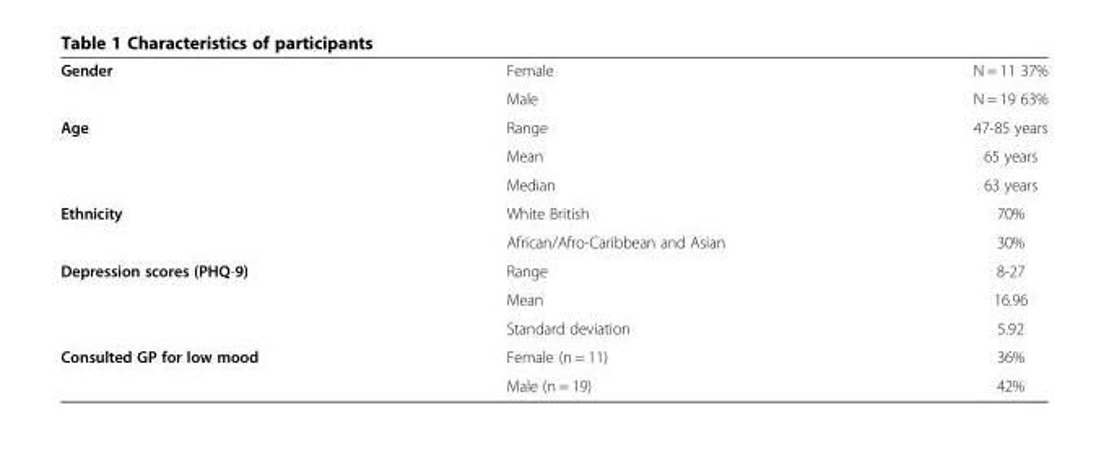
<table><tbody><tr><td rowspan="2">Gender</td><td>Female</td><td>N = 11 37%</td></tr><tr><td>Male</td><td>N = 19 63%</td></tr><tr><td rowspan="3">Age</td><td>Range</td><td>47-85 years</td></tr><tr><td>Mean</td><td>65 years</td></tr><tr><td>Median</td><td>63 years</td></tr><tr><td rowspan="2">Ethnicity</td><td>White British</td><td>70%</td></tr><tr><td>African/Afro-Caribbean and Asian</td><td>30%</td></tr><tr><td rowspan="3">Depression scores (PHQ-9)</td><td>Range</td><td>8-27</td></tr><tr><td>Mean</td><td>16.96</td></tr><tr><td>Standard deviation</td><td>5.92</td></tr><tr><td rowspan="2">Consulted GP for low mood</td><td>Female (n = 11)</td><td>36%</td></tr><tr><td>Male (n = 19)</td><td>42%</td></tr></tbody></table>